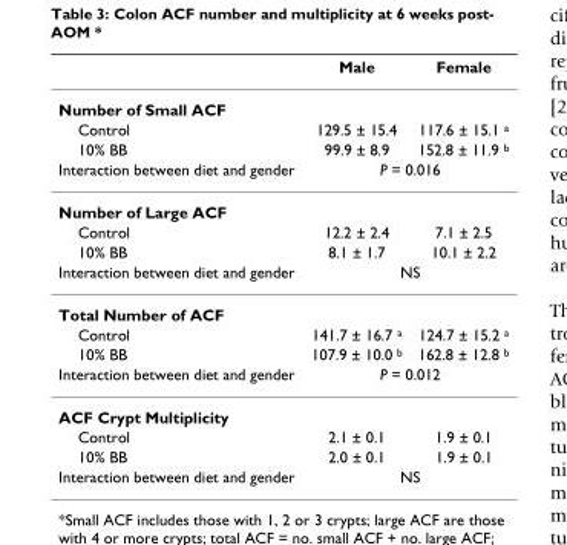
<table><thead><tr><td></td><td>Male</td><td>Female</td></tr></thead><tbody><tr><td colspan="3">Number of Small ACF</td></tr><tr><td>Control</td><td>129.5 ± 15.4</td><td>117.6 ± 15.1 <sup>a</sup></td></tr><tr><td>10% BB</td><td>99.9 ± 8.9</td><td>152.8 ± 11.9 <sup>b</sup></td></tr><tr><td>Interaction between diet and gender</td><td colspan="2">P = 0.016</td></tr><tr><td colspan="3">Number of Large ACF</td></tr><tr><td>Control</td><td>12.2 ± 2.4</td><td>7.1 ± 2.5</td></tr><tr><td>10% BB</td><td>8.1 ± 1.7</td><td>10.1 ± 2.2</td></tr><tr><td>Interaction between diet and gender</td><td colspan="2">NS</td></tr><tr><td colspan="3">Total Number of ACF</td></tr><tr><td>Control</td><td>141.7 ± 16.7 <sup>a</sup></td><td>124.7 ± 15.2 <sup>a</sup></td></tr><tr><td>10% BB</td><td>107.9 ± 10.0 <sup>b</sup></td><td>162.8 ± 12.8 <sup>b</sup></td></tr><tr><td>Interaction between diet and gender</td><td colspan="2">P = 0.012</td></tr><tr><td colspan="3">ACF Crypt Multiplicity</td></tr><tr><td>Control</td><td>2.1 ± 0.1</td><td>1.9 ± 0.1</td></tr><tr><td>10% BB</td><td>2.0 ± 0.1</td><td>1.9 ± 0.1</td></tr><tr><td>Interaction between diet and gender</td><td colspan="2">NS</td></tr></tbody></table>